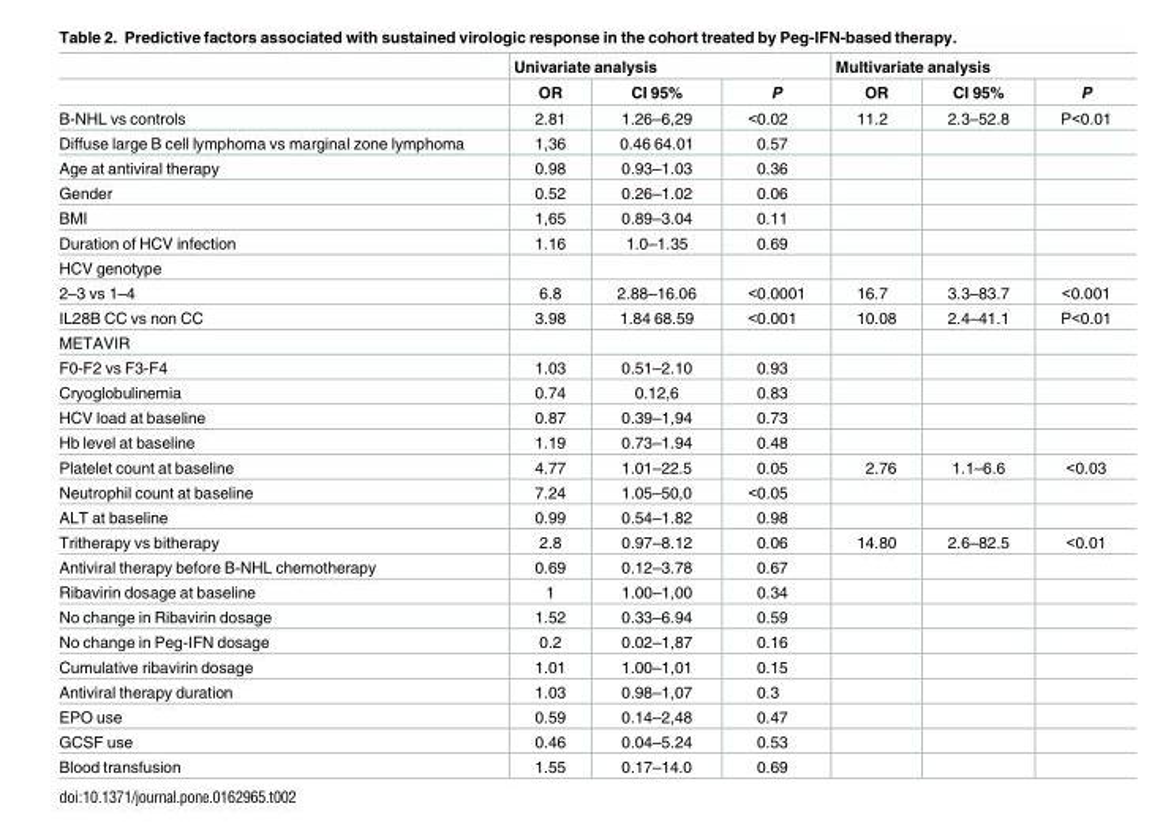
<table><thead><tr><td rowspan="2"></td><td colspan="3">Univariate analysis</td><td colspan="3">Multivariate analysis</td></tr><tr><td>OR</td><td>CI 95%</td><td>P</td><td>OR</td><td>CI 95%</td><td>P</td></tr></thead><tbody><tr><td>B-NHL vs controls</td><td>2.81</td><td>1.26–6,29</td><td>&lt;0.02</td><td>11.2</td><td>2.3–52.8</td><td>P&lt;0.01</td></tr><tr><td>Diffuse large B cell lymphoma vs marginal zone lymphoma</td><td>1,36</td><td>0.46 64.01</td><td>0.57</td><td></td><td></td><td></td></tr><tr><td>Age at antiviral therapy</td><td>0.98</td><td>0.93–1.03</td><td>0.36</td><td></td><td></td><td></td></tr><tr><td>Gender</td><td>0.52</td><td>0.26–1.02</td><td>0.06</td><td></td><td></td><td></td></tr><tr><td>BMI</td><td>1,65</td><td>0.89–3.04</td><td>0.11</td><td></td><td></td><td></td></tr><tr><td>Duration of HCV infection</td><td>1.16</td><td>1.0–1.35</td><td>0.69</td><td></td><td></td><td></td></tr><tr><td colspan="7">HCV genotype</td></tr><tr><td>2–3 vs 1–4</td><td>6.8</td><td>2.88–16.06</td><td>&lt;0.0001</td><td>16.7</td><td>3.3–83.7</td><td>&lt;0.001</td></tr><tr><td>IL28B CC vs non CC</td><td>3.98</td><td>1.84 68.59</td><td>&lt;0.001</td><td>10.08</td><td>2.4–41.1</td><td>P&lt;0.01</td></tr><tr><td colspan="7">METAVIR</td></tr><tr><td>F0-F2 vs F3-F4</td><td>1.03</td><td>0.51–2.10</td><td>0.93</td><td></td><td></td><td></td></tr><tr><td>Cryoglobulinemia</td><td>0.74</td><td>0.12,6</td><td>0.83</td><td></td><td></td><td></td></tr><tr><td>HCV load at baseline</td><td>0.87</td><td>0.39–1,94</td><td>0.73</td><td></td><td></td><td></td></tr><tr><td>Hb level at baseline</td><td>1.19</td><td>0.73–1.94</td><td>0.48</td><td></td><td></td><td></td></tr><tr><td>Platelet count at baseline</td><td>4.77</td><td>1.01–22.5</td><td>0.05</td><td>2.76</td><td>1.1–6.6</td><td>&lt;0.03</td></tr><tr><td>Neutrophil count at baseline</td><td>7.24</td><td>1.05–50,0</td><td>&lt;0.05</td><td></td><td></td><td></td></tr><tr><td>ALT at baseline</td><td>0.99</td><td>0.54–1.82</td><td>0.98</td><td></td><td></td><td></td></tr><tr><td>Tritherapy vs bitherapy</td><td>2.8</td><td>0.97–8.12</td><td>0.06</td><td>14.80</td><td>2.6–82.5</td><td>&lt;0.01</td></tr><tr><td>Antiviral therapy before B-NHL chemotherapy</td><td>0.69</td><td>0.12–3.78</td><td>0.67</td><td></td><td></td><td></td></tr><tr><td>Ribavirin dosage at baseline</td><td>1</td><td>1.00–1,00</td><td>0.34</td><td></td><td></td><td></td></tr><tr><td>No change in Ribavirin dosage</td><td>1.52</td><td>0.33–6.94</td><td>0.59</td><td></td><td></td><td></td></tr><tr><td>No change in Peg-IFN dosage</td><td>0.2</td><td>0.02–1,87</td><td>0.16</td><td></td><td></td><td></td></tr><tr><td>Cumulative ribavirin dosage</td><td>1.01</td><td>1.00–1,01</td><td>0.15</td><td></td><td></td><td></td></tr><tr><td>Antiviral therapy duration</td><td>1.03</td><td>0.98–1,07</td><td>0.3</td><td></td><td></td><td></td></tr><tr><td>EPO use</td><td>0.59</td><td>0.14–2,48</td><td>0.47</td><td></td><td></td><td></td></tr><tr><td>GCSF use</td><td>0.46</td><td>0.04–5.24</td><td>0.53</td><td></td><td></td><td></td></tr><tr><td>Blood transfusion</td><td>1.55</td><td>0.17–14.0</td><td>0.69</td><td></td><td></td><td></td></tr></tbody></table>